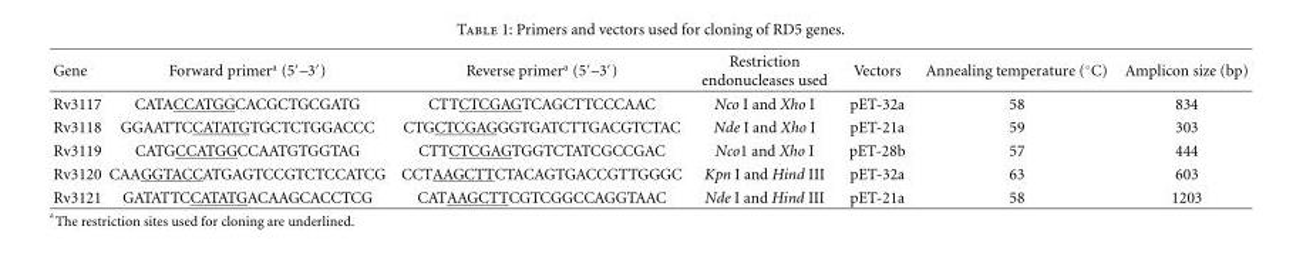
<table><thead><tr><td>Gene</td><td>Forward primer<sup>a</sup> (5′–3′)</td><td>Reverse primer<sup>a</sup> (5′–3′)</td><td>Restriction endonucleases used</td><td>Vectors</td><td>Annealing temperature (◦C)</td><td>Amplicon size (bp)</td></tr></thead><tbody><tr><td>Rv3117</td><td>CATACCATGGCACGCTGCGATG</td><td>CTTCTCGAGTCAGCTTCCCAAC</td><td>Nco I and Xho I</td><td>pET-32a</td><td>58</td><td>834</td></tr><tr><td>Rv3118</td><td>GGAATTCCATATGTGCTCTGGACCC</td><td>CTGCTCGAGGGTGATCTTGACGTCTAC</td><td>Nde I and Xho I</td><td>pET-21a</td><td>59</td><td>303</td></tr><tr><td>Rv3119</td><td>CATGCCATGGCCAATGTGGTAG</td><td>CTTCTCGAGTGGTCTATCGCCGAC</td><td>Nco1 and Xho I</td><td>pET-28b</td><td>57</td><td>444</td></tr><tr><td>Rv3120</td><td>CAAGGTACCATGAGTCCGTCTCCATCG</td><td>CCTAAGCTTCTACAGTGACCGTTGGGC</td><td>Kpn I and Hind III</td><td>pET-32a</td><td>63</td><td>603</td></tr><tr><td>Rv3121</td><td>GATATTCCATATGACAAGCACCTCG</td><td>CATAAGCTTCGTCGGCCAGGTAAC</td><td>Nde I and Hind III</td><td>pET-21a</td><td>58</td><td>1203</td></tr></tbody></table>